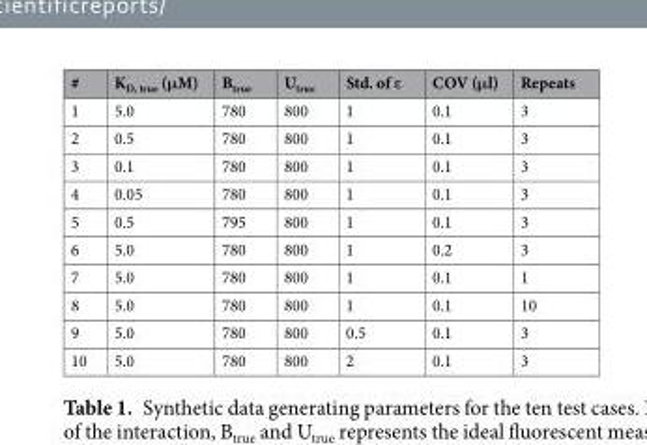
<table><thead><tr><td>#</td><td>K<sub>D, true</sub> (μM)</td><td>B<sub>true</sub></td><td>U<sub>true</sub></td><td>Std. of ε</td><td>COV (μl)</td><td>Repeats</td></tr></thead><tbody><tr><td>1</td><td>5.0</td><td>780</td><td>800</td><td>1</td><td>0.1</td><td>3</td></tr><tr><td>2</td><td>0.5</td><td>780</td><td>800</td><td>1</td><td>0.1</td><td>3</td></tr><tr><td>3</td><td>0.1</td><td>780</td><td>800</td><td>1</td><td>0.1</td><td>3</td></tr><tr><td>4</td><td>0.05</td><td>780</td><td>800</td><td>1</td><td>0.1</td><td>3</td></tr><tr><td>5</td><td>0.5</td><td>795</td><td>800</td><td>1</td><td>0.1</td><td>3</td></tr><tr><td>6</td><td>5.0</td><td>780</td><td>800</td><td>1</td><td>0.2</td><td>3</td></tr><tr><td>7</td><td>5.0</td><td>780</td><td>800</td><td>1</td><td>0.1</td><td>1</td></tr><tr><td>8</td><td>5.0</td><td>780</td><td>800</td><td>1</td><td>0.1</td><td>10</td></tr><tr><td>9</td><td>5.0</td><td>780</td><td>800</td><td>0.5</td><td>0.1</td><td>3</td></tr><tr><td>10</td><td>5.0</td><td>780</td><td>800</td><td>2</td><td>0.1</td><td>3</td></tr></tbody></table>